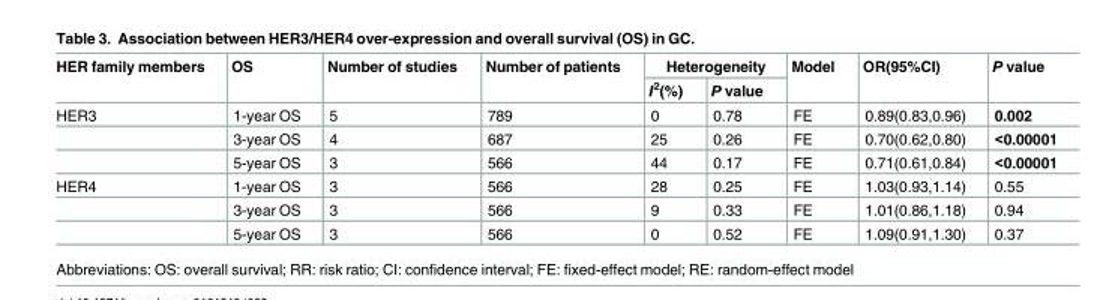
<table><thead><tr><td rowspan="2">HER family members</td><td rowspan="2">OS</td><td rowspan="2">Number of studies</td><td rowspan="2">Number of patients</td><td colspan="2">Heterogeneity</td><td rowspan="2">Model</td><td rowspan="2">OR(95%CI)</td><td rowspan="2">P value</td></tr><tr><td>I<sup>2</sup>(%)</td><td>P value</td></tr></thead><tbody><tr><td rowspan="3">HER3</td><td>1-year OS</td><td>5</td><td>789</td><td>0</td><td>0.78</td><td>FE</td><td>0.89(0.83,0.96)</td><td>0.002</td></tr><tr><td>3-year OS</td><td>4</td><td>687</td><td>25</td><td>0.26</td><td>FE</td><td>0.70(0.62,0.80)</td><td>&lt;0.00001</td></tr><tr><td>5-year OS</td><td>3</td><td>566</td><td>44</td><td>0.17</td><td>FE</td><td>0.71(0.61,0.84)</td><td>&lt;0.00001</td></tr><tr><td rowspan="3">HER4</td><td>1-year OS</td><td>3</td><td>566</td><td>28</td><td>0.25</td><td>FE</td><td>1.03(0.93,1.14)</td><td>0.55</td></tr><tr><td>3-year OS</td><td>3</td><td>566</td><td>9</td><td>0.33</td><td>FE</td><td>1.01(0.86,1.18)</td><td>0.94</td></tr><tr><td>5-year OS</td><td>3</td><td>566</td><td>0</td><td>0.52</td><td>FE</td><td>1.09(0.91,1.30)</td><td>0.37</td></tr></tbody></table>